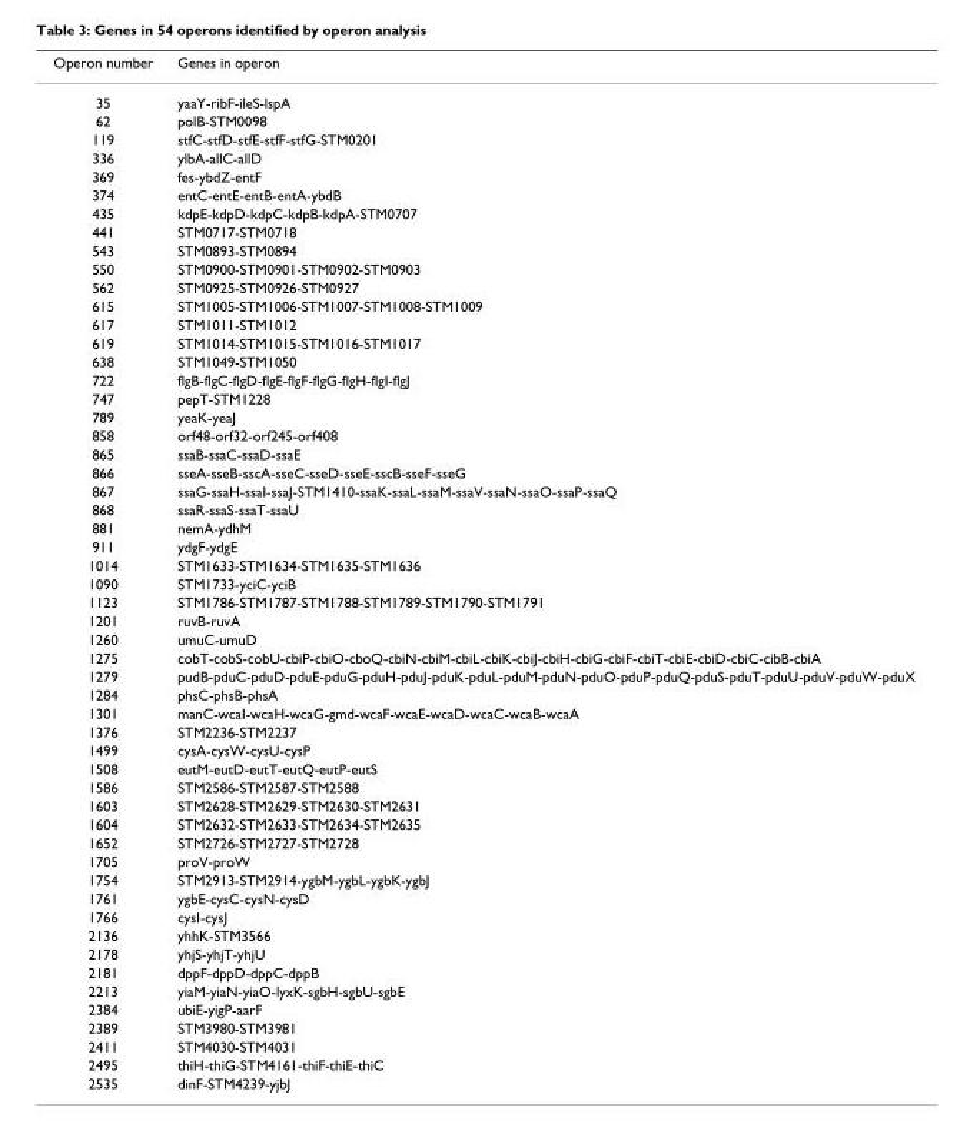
<table><thead><tr><td>Operon number</td><td>Genes in operon</td></tr></thead><tbody><tr><td>35</td><td>yaaY-ribF-ileS-lspA</td></tr><tr><td>62</td><td>polB-STM0098</td></tr><tr><td>119</td><td>stfC-stfD-stfE-stfF-stfG-STM0201</td></tr><tr><td>336</td><td>ylbA-allC-allD</td></tr><tr><td>369</td><td>fes-ybdZ-entF</td></tr><tr><td>374</td><td>entC-entE-entB-entA-ybdB</td></tr><tr><td>435</td><td>kdpE-kdpD-kdpC-kdpB-kdpA-STM0707</td></tr><tr><td>441</td><td>STM0717-STM0718</td></tr><tr><td>543</td><td>STM0893-STM0894</td></tr><tr><td>550</td><td>STM0900-STM0901-STM0902-STM0903</td></tr><tr><td>562</td><td>STM0925-STM0926-STM0927</td></tr><tr><td>615</td><td>STM1005-STM1006-STM1007-STM1008-STM1009</td></tr><tr><td>617</td><td>STM1011-STM1012</td></tr><tr><td>619</td><td>STM1014-STM1015-STM1016-STM1017</td></tr><tr><td>638</td><td>STM1049-STM1050</td></tr><tr><td>722</td><td>flgB-flgC-flgD-flgE-flgF-flgG-flgH-flgI-flgJ</td></tr><tr><td>747</td><td>pepT-STM1228</td></tr><tr><td>789</td><td>yeaK-yeaJ</td></tr><tr><td>858</td><td>orf48-orf32-orf245-orf408</td></tr><tr><td>865</td><td>ssaB-ssaC-ssaD-ssaE</td></tr><tr><td>866</td><td>sseA-sseB-sscA-sseC-sseD-sseE-sscB-sseF-sseG</td></tr><tr><td>867</td><td>ssaG-ssaH-ssaI-ssaJ-STM1410-ssaK-ssaL-ssaM-ssaV-ssaN-ssaO-ssaP-ssaQ</td></tr><tr><td>868</td><td>ssaR-ssaS-ssaT-ssaU</td></tr><tr><td>881</td><td>nemA-ydhM</td></tr><tr><td>911</td><td>ydgF-ydgE</td></tr><tr><td>1014</td><td>STM1633-STM1634-STM1635-STM1636</td></tr><tr><td>1090</td><td>STM1733-yciC-yciB</td></tr><tr><td>1123</td><td>STM1786-STM1787-STM1788-STM1789-STM1790-STM1791</td></tr><tr><td>1201</td><td>ruvB-ruvA</td></tr><tr><td>1260</td><td>umuC-umuD</td></tr><tr><td>1275</td><td>cobT-cobS-cobU-cbiP-cbiO-cboQ-cbiN-cbiM-cbiL-cbiK-cbiJ-cbiH-cbiG-cbiF-cbiT-cbiE-cbiD-cbiC-cibB-cbiA</td></tr><tr><td>1279</td><td>pudB-pduC-pduD-pduE-pduG-pduH-pduJ-pduK-pduL-pduM-pduN-pduO-pduP-pduQ-pduS-pduT-pduU-pduV-pduW-pduX</td></tr><tr><td>1284</td><td>phsC-phsB-phsA</td></tr><tr><td>1301</td><td>manC-wcaI-wcaH-wcaG-gmd-wcaF-wcaE-wcaD-wcaC-wcaB-wcaA</td></tr><tr><td>1376</td><td>STM2236-STM2237</td></tr><tr><td>1499</td><td>cysA-cysW-cysU-cysP</td></tr><tr><td>1508</td><td>eutM-eutD-eutT-eutQ-eutP-eutS</td></tr><tr><td>1586</td><td>STM2586-STM2587-STM2588</td></tr><tr><td>1603</td><td>STM2628-STM2629-STM2630-STM2631</td></tr><tr><td>1604</td><td>STM2632-STM2633-STM2634-STM2635</td></tr><tr><td>1652</td><td>STM2726-STM2727-STM2728</td></tr><tr><td>1705</td><td>proV-proW</td></tr><tr><td>1754</td><td>STM2913-STM2914-ygbM-ygbL-ygbK-ygbJ</td></tr><tr><td>1761</td><td>ygbE-cysC-cysN-cysD</td></tr><tr><td>1766</td><td>cysI-cysJ</td></tr><tr><td>2136</td><td>yhhK-STM3566</td></tr><tr><td>2178</td><td>yhjS-yhjT-yhjU</td></tr><tr><td>2181</td><td>dppF-dppD-dppC-dppB</td></tr><tr><td>2213</td><td>yiaM-yiaN-yiaO-lyxK-sgbH-sgbU-sgbE</td></tr><tr><td>2384</td><td>ubiE-yigP-aarF</td></tr><tr><td>2389</td><td>STM3980-STM3981</td></tr><tr><td>2411</td><td>STM4030-STM4031</td></tr><tr><td>2495</td><td>thiH-thiG-STM4161-thiF-thiE-thiC</td></tr><tr><td>2535</td><td>dinF-STM4239-yjbJ</td></tr></tbody></table>